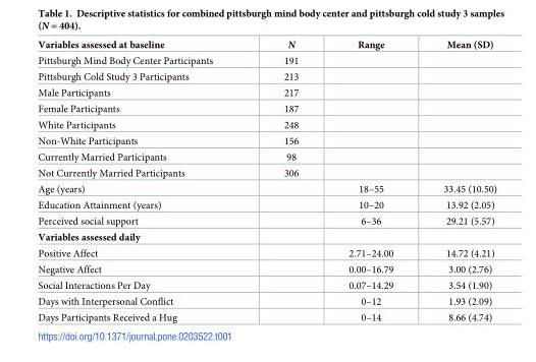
<table><thead><tr><td>Variables assessed at baseline</td><td>N</td><td>Range</td><td>Mean (SD)</td></tr></thead><tbody><tr><td>Pittsburgh Mind Body Center Participants</td><td>191</td><td></td><td></td></tr><tr><td>Pittsburgh Cold Study 3 Participants</td><td>213</td><td></td><td></td></tr><tr><td>Male Participants</td><td>217</td><td></td><td></td></tr><tr><td>Female Participants</td><td>187</td><td></td><td></td></tr><tr><td>White Participants</td><td>248</td><td></td><td></td></tr><tr><td>Non-White Participants</td><td>156</td><td></td><td></td></tr><tr><td>Currently Married Participants</td><td>98</td><td></td><td></td></tr><tr><td>Not Currently Married Participants</td><td>306</td><td></td><td></td></tr><tr><td>Age (years)</td><td></td><td>18–55</td><td>33.45 (10.50)</td></tr><tr><td>Education Attainment (years)</td><td></td><td>10–20</td><td>13.92 (2.05)</td></tr><tr><td>Perceived social support</td><td></td><td>6–36</td><td>29.21 (5.57)</td></tr><tr><td colspan="4">Variables assessed daily</td></tr><tr><td>Positive Affect</td><td></td><td>2.71–24.00</td><td>14.72 (4.21)</td></tr><tr><td>Negative Affect</td><td></td><td>0.00–16.79</td><td>3.00 (2.76)</td></tr><tr><td>Social Interactions Per Day</td><td></td><td>0.07–14.29</td><td>3.54 (1.90)</td></tr><tr><td>Days with Interpersonal Conflict</td><td></td><td>0–12</td><td>1.93 (2.09)</td></tr><tr><td>Days Participants Received a Hug</td><td></td><td>0–14</td><td>8.66 (4.74)</td></tr></tbody></table>